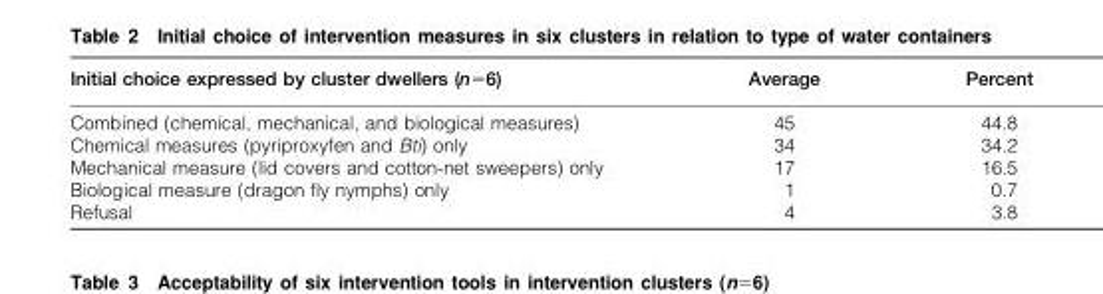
<table><thead><tr><td>Initial choice expressed by cluster dwellers (n=6)</td><td>Average</td><td>Percent</td></tr></thead><tbody><tr><td>Combined (chemical, mechanical, and biological measures)</td><td>45</td><td>44.8</td></tr><tr><td>Chemical measures (pyriproxyfen and Bti) only</td><td>34</td><td>34.2</td></tr><tr><td>Mechanical measure (lid covers and cotton-net sweepers) only</td><td>17</td><td>16.5</td></tr><tr><td>Biological measure (dragon fly nymphs) only</td><td>1</td><td>0.7</td></tr><tr><td>Refusal</td><td>4</td><td>3.8</td></tr></tbody></table>